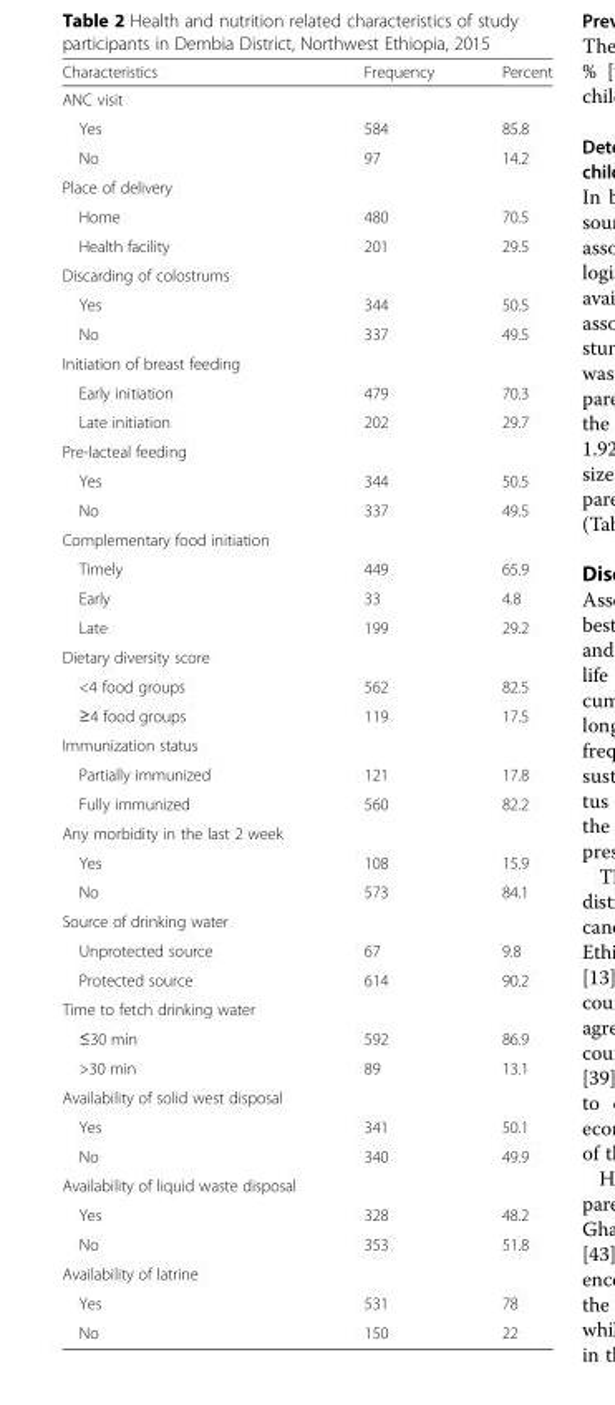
<table><thead><tr><td>Characteristics</td><td>Frequency</td><td>Percent</td></tr></thead><tbody><tr><td colspan="3">ANC visit</td></tr><tr><td>Yes</td><td>584</td><td>85.8</td></tr><tr><td>No</td><td>97</td><td>14.2</td></tr><tr><td colspan="3">Place of delivery</td></tr><tr><td>Home</td><td>480</td><td>70.5</td></tr><tr><td>Health facility</td><td>201</td><td>29.5</td></tr><tr><td colspan="3">Discarding of colostrums</td></tr><tr><td>Yes</td><td>344</td><td>50.5</td></tr><tr><td>No</td><td>337</td><td>49.5</td></tr><tr><td colspan="3">Initiation of breast feeding</td></tr><tr><td>Early initiation</td><td>479</td><td>70.3</td></tr><tr><td>Late initiation</td><td>202</td><td>29.7</td></tr><tr><td colspan="3">Pre-lacteal feeding</td></tr><tr><td>Yes</td><td>344</td><td>50.5</td></tr><tr><td>No</td><td>337</td><td>49.5</td></tr><tr><td colspan="3">Complementary food initiation</td></tr><tr><td>Timely</td><td>449</td><td>65.9</td></tr><tr><td>Early</td><td>33</td><td>4.8</td></tr><tr><td>Late</td><td>199</td><td>29.2</td></tr><tr><td colspan="3">Dietary diversity score</td></tr><tr><td>&lt;4 food groups</td><td>562</td><td>82.5</td></tr><tr><td>≥4 food groups</td><td>119</td><td>17.5</td></tr><tr><td colspan="3">Immunization status</td></tr><tr><td>Partially immunized</td><td>121</td><td>17.8</td></tr><tr><td>Fully immunized</td><td>560</td><td>82.2</td></tr><tr><td colspan="3">Any morbidity in the last 2 week</td></tr><tr><td>Yes</td><td>108</td><td>15.9</td></tr><tr><td>No</td><td>573</td><td>84.1</td></tr><tr><td colspan="3">Source of drinking water</td></tr><tr><td>Unprotected source</td><td>67</td><td>9.8</td></tr><tr><td>Protected source</td><td>614</td><td>90.2</td></tr><tr><td colspan="3">Time to fetch drinking water</td></tr><tr><td>≤30 min</td><td>592</td><td>86.9</td></tr><tr><td>&gt;30 min</td><td>89</td><td>13.1</td></tr><tr><td colspan="3">Availability of solid west disposal</td></tr><tr><td>Yes</td><td>341</td><td>50.1</td></tr><tr><td>No</td><td>340</td><td>49.9</td></tr><tr><td colspan="3">Availability of liquid waste disposal</td></tr><tr><td>Yes</td><td>328</td><td>48.2</td></tr><tr><td>No</td><td>353</td><td>51.8</td></tr><tr><td colspan="3">Availability of latrine</td></tr><tr><td>Yes</td><td>531</td><td>78</td></tr><tr><td>No</td><td>150</td><td>22</td></tr></tbody></table>